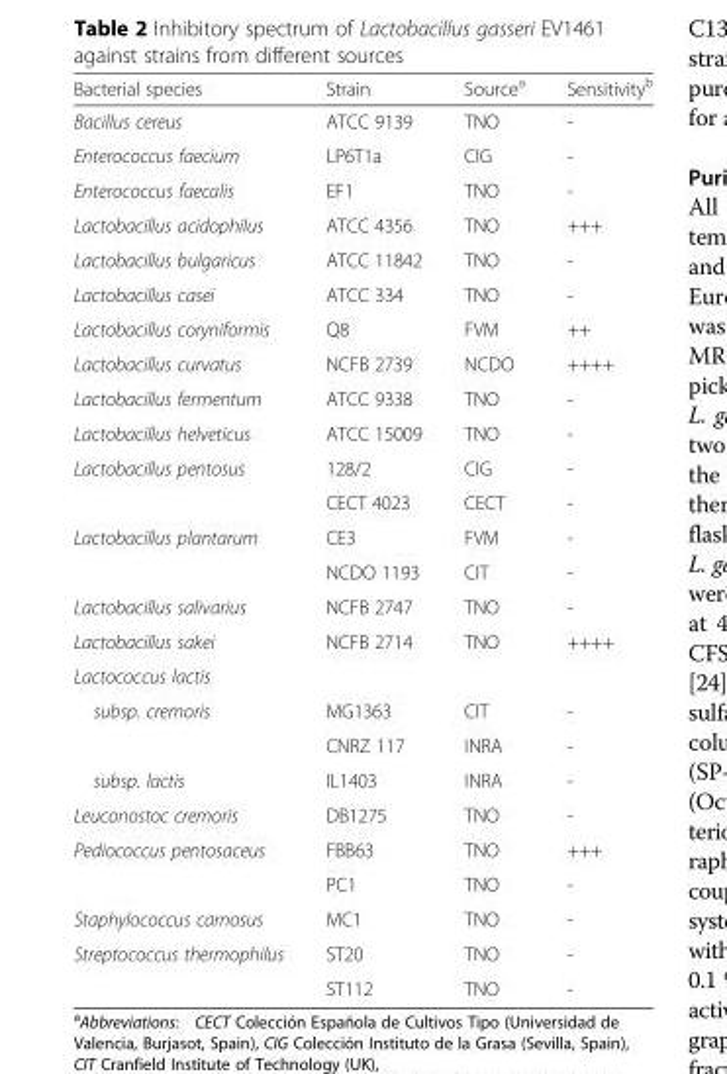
<table><thead><tr><td>Bacterial species</td><td>Strain</td><td>Source<sup>a</sup></td><td>Sensitivity<sup>b</sup></td></tr></thead><tbody><tr><td>Bacillus cereus</td><td>ATCC 9139</td><td>TNO</td><td>-</td></tr><tr><td>Enterococcus faecium</td><td>LP6T1a</td><td>CIG</td><td>-</td></tr><tr><td>Enterococcus faecalis</td><td>EF1</td><td>TNO</td><td>-</td></tr><tr><td>Lactobacillus acidophilus</td><td>ATCC 4356</td><td>TNO</td><td>+++</td></tr><tr><td>Lactobacillus bulgaricus</td><td>ATCC 11842</td><td>TNO</td><td>-</td></tr><tr><td>Lactobacillus casei</td><td>ATCC 334</td><td>TNO</td><td>-</td></tr><tr><td>Lactobacillus coryniformis</td><td>Q8</td><td>FVM</td><td>++</td></tr><tr><td>Lactobacillus curvatus</td><td>NCFB 2739</td><td>NCDO</td><td>++++</td></tr><tr><td>Lactobacillus fermentum</td><td>ATCC 9338</td><td>TNO</td><td>-</td></tr><tr><td>Lactobacillus helveticus</td><td>ATCC 15009</td><td>TNO</td><td>-</td></tr><tr><td rowspan="2">Lactobacillus pentosus</td><td>128/2</td><td>CIG</td><td>-</td></tr><tr><td>CECT 4023</td><td>CECT</td><td>-</td></tr><tr><td rowspan="2">Lactobacillus plantarum</td><td>CE3</td><td>FVM</td><td>-</td></tr><tr><td>NCDO 1193</td><td>CIT</td><td>-</td></tr><tr><td>Lactobacillus salivarius</td><td>NCFB 2747</td><td>TNO</td><td>-</td></tr><tr><td>Lactobacillus sakei</td><td>NCFB 2714</td><td>TNO</td><td>++++</td></tr><tr><td colspan="4">Lactococcus lactis</td></tr><tr><td rowspan="2">subsp. cremoris</td><td>MG1363</td><td>CIT</td><td>-</td></tr><tr><td>CNRZ 117</td><td>INRA</td><td>-</td></tr><tr><td>subsp. lactis</td><td>IL1403</td><td>INRA</td><td>-</td></tr><tr><td>Leuconostoc cremoris</td><td>DB1275</td><td>TNO</td><td>-</td></tr><tr><td rowspan="2">Pediococcus pentosaceus</td><td>FBB63</td><td>TNO</td><td>+++</td></tr><tr><td>PC1</td><td>TNO</td><td>-</td></tr><tr><td>Staphylococcus carnosus</td><td>MC1</td><td>TNO</td><td>-</td></tr><tr><td rowspan="2">Streptococcus thermophilus</td><td>ST20</td><td>TNO</td><td>-</td></tr><tr><td>ST112</td><td>TNO</td><td>-</td></tr></tbody></table>